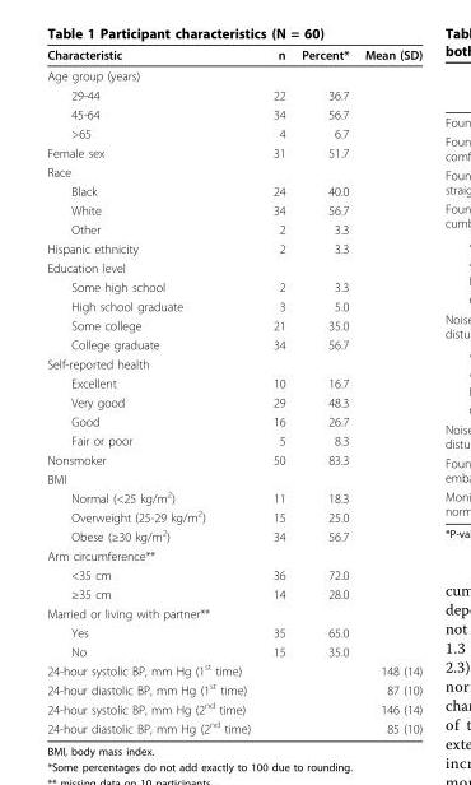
<table><thead><tr><td>Characteristic</td><td>n</td><td>Percent*</td><td>Mean (SD)</td></tr></thead><tbody><tr><td colspan="4">Age group (years)</td></tr><tr><td>29-44</td><td>22</td><td>36.7</td><td></td></tr><tr><td>45-64</td><td>34</td><td>56.7</td><td></td></tr><tr><td>&gt;65</td><td>4</td><td>6.7</td><td></td></tr><tr><td>Female sex</td><td>31</td><td>51.7</td><td></td></tr><tr><td colspan="4">Race</td></tr><tr><td>Black</td><td>24</td><td>40.0</td><td></td></tr><tr><td>White</td><td>34</td><td>56.7</td><td></td></tr><tr><td>Other</td><td>2</td><td>3.3</td><td></td></tr><tr><td>Hispanic ethnicity</td><td>2</td><td>3.3</td><td></td></tr><tr><td colspan="4">Education level</td></tr><tr><td>Some high school</td><td>2</td><td>3.3</td><td></td></tr><tr><td>High school graduate</td><td>3</td><td>5.0</td><td></td></tr><tr><td>Some college</td><td>21</td><td>35.0</td><td></td></tr><tr><td>College graduate</td><td>34</td><td>56.7</td><td></td></tr><tr><td colspan="4">Self-reported health</td></tr><tr><td>Excellent</td><td>10</td><td>16.7</td><td></td></tr><tr><td>Very good</td><td>29</td><td>48.3</td><td></td></tr><tr><td>Good</td><td>16</td><td>26.7</td><td></td></tr><tr><td>Fair or poor</td><td>5</td><td>8.3</td><td></td></tr><tr><td>Nonsmoker</td><td>50</td><td>83.3</td><td></td></tr><tr><td colspan="4">BMI</td></tr><tr><td>Normal (&lt;25 kg/m<sup>2</sup>)</td><td>11</td><td>18.3</td><td></td></tr><tr><td>Overweight (25-29 kg/m<sup>2</sup>)</td><td>15</td><td>25.0</td><td></td></tr><tr><td>Obese (≥30 kg/m<sup>2</sup>)</td><td>34</td><td>56.7</td><td></td></tr><tr><td colspan="4">Arm circumference**</td></tr><tr><td>&lt;35 cm</td><td>36</td><td>72.0</td><td></td></tr><tr><td>≥35 cm</td><td>14</td><td>28.0</td><td></td></tr><tr><td colspan="4">Married or living with partner**</td></tr><tr><td>Yes</td><td>35</td><td>65.0</td><td></td></tr><tr><td>No</td><td>15</td><td>35.0</td><td></td></tr><tr><td>24-hour systolic BP, mm Hg (1<sup>st</sup> time)</td><td></td><td></td><td>148 (14)</td></tr><tr><td>24-hour diastolic BP, mm Hg (1<sup>st</sup> time)</td><td></td><td></td><td>87 (10)</td></tr><tr><td>24-hour systolic BP, mm Hg (2<sup>nd</sup> time)</td><td></td><td></td><td>146 (14)</td></tr><tr><td>24-hour diastolic BP, mm Hg (2<sup>nd</sup> time)</td><td></td><td></td><td>85 (10)</td></tr></tbody></table>